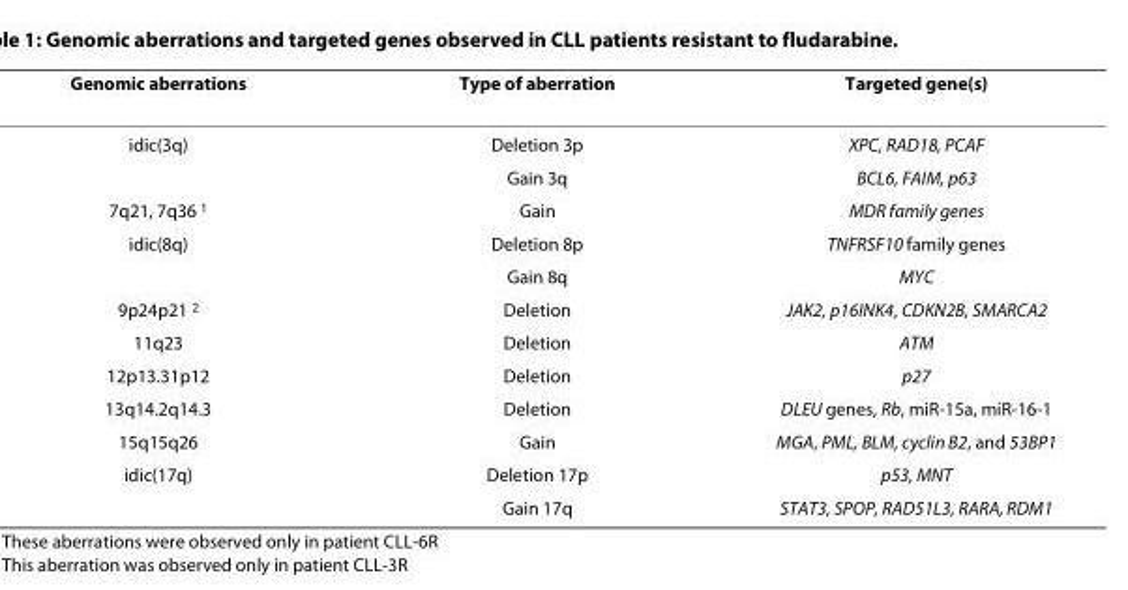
<table><thead><tr><td>Genomic aberrations</td><td>Type of aberration</td><td>Targeted gene(s)</td></tr></thead><tbody><tr><td rowspan="2">idic(3q)</td><td>Deletion 3p</td><td>XPC, RAD18, PCAF</td></tr><tr><td>Gain 3q</td><td>BCL6, FAIM, p63</td></tr><tr><td>7q21, 7q36 <sup>1</sup></td><td>Gain</td><td>MDR family genes</td></tr><tr><td rowspan="2">idic(8q)</td><td>Deletion 8p</td><td>TNFRSF10 family genes</td></tr><tr><td>Gain 8q</td><td>MYC</td></tr><tr><td>9p24p21 <sup>2</sup></td><td>Deletion</td><td>JAK2, p16INK4, CDKN2B, SMARCA2</td></tr><tr><td>11q23</td><td>Deletion</td><td>ATM</td></tr><tr><td>12p13.31p12</td><td>Deletion</td><td>p27</td></tr><tr><td>13q14.2q14.3</td><td>Deletion</td><td>DLEU genes, Rb, miR-15a, miR-16-1</td></tr><tr><td>15q15q26</td><td>Gain</td><td>MGA, PML, BLM, cyclin B2, and 53BP1</td></tr><tr><td rowspan="2">idic(17q)</td><td>Deletion 17p</td><td>p53, MNT</td></tr><tr><td>Gain 17q</td><td>STAT3, SPOP, RAD51L3, RARA, RDM1</td></tr></tbody></table>